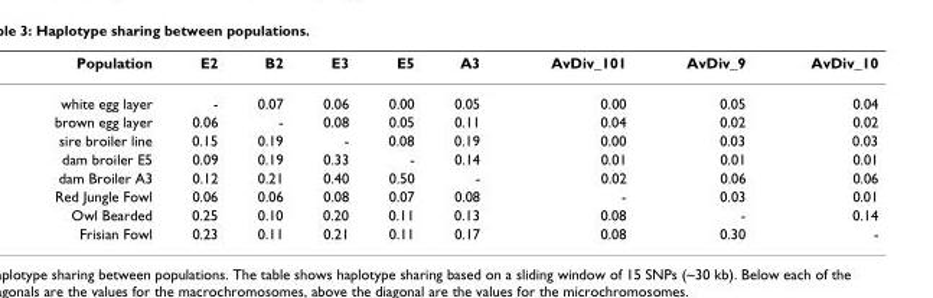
<table><thead><tr><td>Population</td><td>E2</td><td>B2</td><td>E3</td><td>E5</td><td>A3</td><td>AvDiv_101</td><td>AvDiv_9</td><td>AvDiv_10</td></tr></thead><tbody><tr><td>white egg layer</td><td>-</td><td>0.07</td><td>0.06</td><td>0.00</td><td>0.05</td><td>0.00</td><td>0.05</td><td>0.04</td></tr><tr><td>brown egg layer</td><td>0.06</td><td>-</td><td>0.08</td><td>0.05</td><td>0.11</td><td>0.04</td><td>0.02</td><td>0.02</td></tr><tr><td>sire broiler line</td><td>0.15</td><td>0.19</td><td>-</td><td>0.08</td><td>0.19</td><td>0.00</td><td>0.03</td><td>0.03</td></tr><tr><td>dam broiler E5</td><td>0.09</td><td>0.19</td><td>0.33</td><td>-</td><td>0.14</td><td>0.01</td><td>0.01</td><td>0.01</td></tr><tr><td>dam Broiler A3</td><td>0.12</td><td>0.21</td><td>0.40</td><td>0.50</td><td>-</td><td>0.02</td><td>0.06</td><td>0.06</td></tr><tr><td>Red Jungle Fowl</td><td>0.06</td><td>0.06</td><td>0.08</td><td>0.07</td><td>0.08</td><td>-</td><td>0.03</td><td>0.01</td></tr><tr><td>Owl Bearded</td><td>0.25</td><td>0.10</td><td>0.20</td><td>0.11</td><td>0.13</td><td>0.08</td><td>-</td><td>0.14</td></tr><tr><td>Frisian Fowl</td><td>0.23</td><td>0.11</td><td>0.21</td><td>0.11</td><td>0.17</td><td>0.08</td><td>0.30</td><td>-</td></tr></tbody></table>